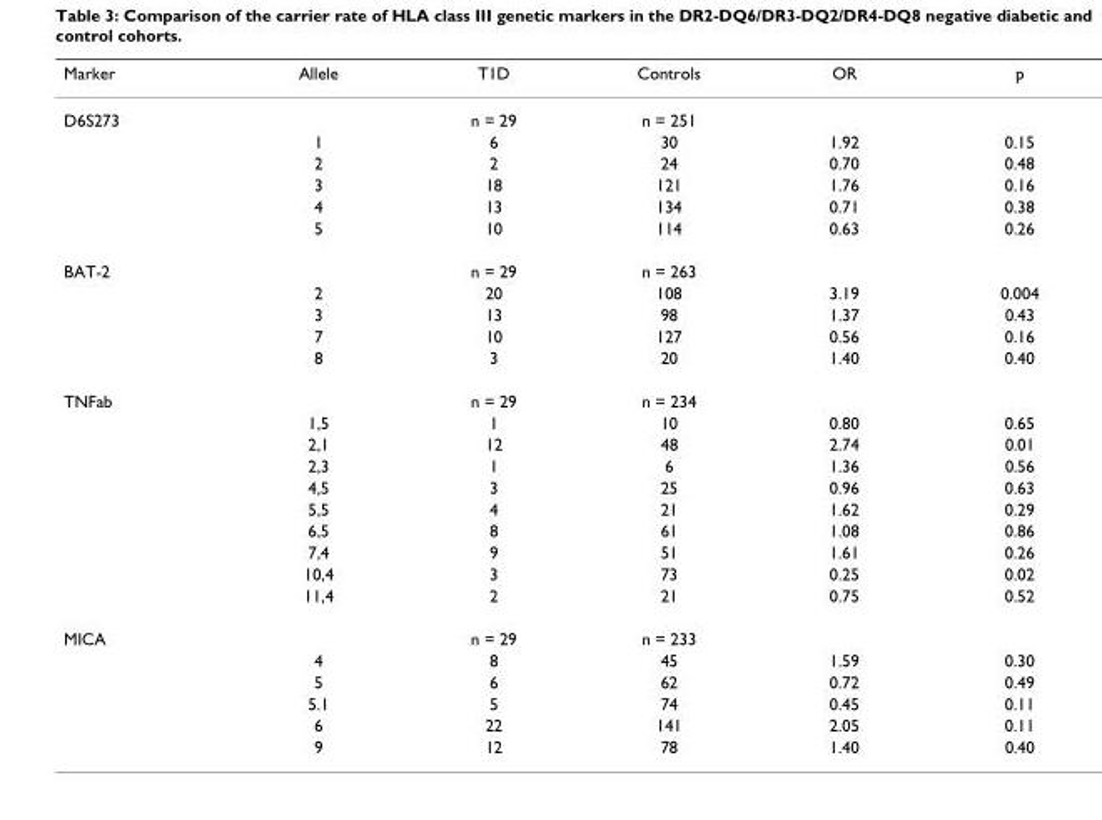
<table><thead><tr><td>Marker</td><td>Allele</td><td>T1D</td><td>Controls</td><td>OR</td><td>p</td></tr></thead><tbody><tr><td rowspan="6">D6S273</td><td></td><td>n = 29</td><td>n = 251</td><td></td><td></td></tr><tr><td>1</td><td>6</td><td>30</td><td>1.92</td><td>0.15</td></tr><tr><td>2</td><td>2</td><td>24</td><td>0.70</td><td>0.48</td></tr><tr><td>3</td><td>18</td><td>121</td><td>1.76</td><td>0.16</td></tr><tr><td>4</td><td>13</td><td>134</td><td>0.71</td><td>0.38</td></tr><tr><td>5</td><td>10</td><td>114</td><td>0.63</td><td>0.26</td></tr><tr><td rowspan="5">BAT-2</td><td></td><td>n = 29</td><td>n = 263</td><td></td><td></td></tr><tr><td>2</td><td>20</td><td>108</td><td>3.19</td><td>0.004</td></tr><tr><td>3</td><td>13</td><td>98</td><td>1.37</td><td>0.43</td></tr><tr><td>7</td><td>10</td><td>127</td><td>0.56</td><td>0.16</td></tr><tr><td>8</td><td>3</td><td>20</td><td>1.40</td><td>0.40</td></tr><tr><td rowspan="10">TNFab</td><td></td><td>n = 29</td><td>n = 234</td><td></td><td></td></tr><tr><td>1,5</td><td>1</td><td>10</td><td>0.80</td><td>0.65</td></tr><tr><td>2,1</td><td>12</td><td>48</td><td>2.74</td><td>0.01</td></tr><tr><td>2,3</td><td>1</td><td>6</td><td>1.36</td><td>0.56</td></tr><tr><td>4,5</td><td>3</td><td>25</td><td>0.96</td><td>0.63</td></tr><tr><td>5,5</td><td>4</td><td>21</td><td>1.62</td><td>0.29</td></tr><tr><td>6,5</td><td>8</td><td>61</td><td>1.08</td><td>0.86</td></tr><tr><td>7,4</td><td>9</td><td>51</td><td>1.61</td><td>0.26</td></tr><tr><td>10,4</td><td>3</td><td>73</td><td>0.25</td><td>0.02</td></tr><tr><td>11,4</td><td>2</td><td>21</td><td>0.75</td><td>0.52</td></tr><tr><td rowspan="6">MICA</td><td></td><td>n = 29</td><td>n = 233</td><td></td><td></td></tr><tr><td>4</td><td>8</td><td>45</td><td>1.59</td><td>0.30</td></tr><tr><td>5</td><td>6</td><td>62</td><td>0.72</td><td>0.49</td></tr><tr><td>5.1</td><td>5</td><td>74</td><td>0.45</td><td>0.11</td></tr><tr><td>6</td><td>22</td><td>141</td><td>2.05</td><td>0.11</td></tr><tr><td>9</td><td>12</td><td>78</td><td>1.40</td><td>0.40</td></tr></tbody></table>